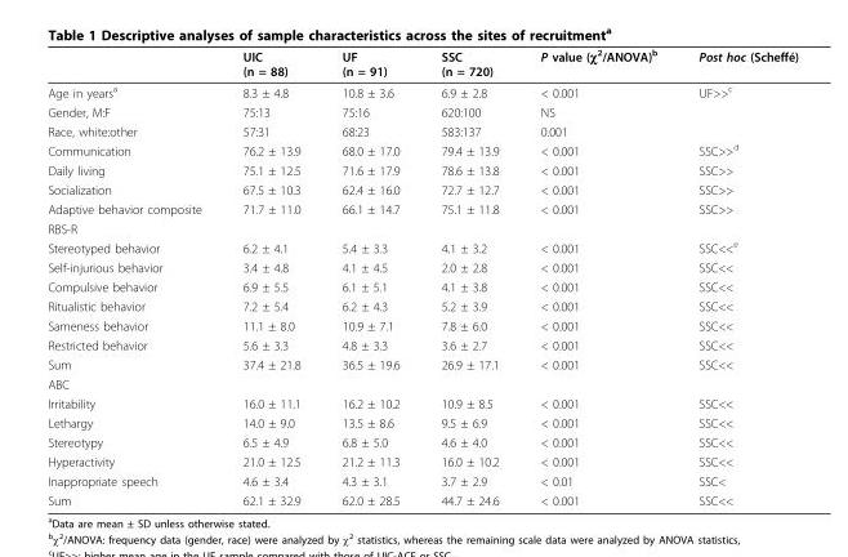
<table><thead><tr><td></td><td>UIC (n = 88)</td><td>UF (n = 91)</td><td>SSC (n = 720)</td><td>P value (χ<sup>2</sup>/ANOVA)<sup>b</sup></td><td>Post hoc (Scheffé)</td></tr></thead><tbody><tr><td>Age in years<sup>a</sup></td><td>8.3 ± 4.8</td><td>10.8 ± 3.6</td><td>6.9 ± 2.8</td><td>&lt; 0.001</td><td>UF&gt;&gt;<sup>c</sup></td></tr><tr><td>Gender, M:F</td><td>75:13</td><td>75:16</td><td>620:100</td><td>NS</td><td></td></tr><tr><td>Race, white:other</td><td>57:31</td><td>68:23</td><td>583:137</td><td>0.001</td><td></td></tr><tr><td>Communication</td><td>76.2 ± 13.9</td><td>68.0 ± 17.0</td><td>79.4 ± 13.9</td><td>&lt; 0.001</td><td>SSC&gt;&gt;<sup>d</sup></td></tr><tr><td>Daily living</td><td>75.1 ± 12.5</td><td>71.6 ± 17.9</td><td>78.6 ± 13.8</td><td>&lt; 0.001</td><td>SSC&gt;&gt;</td></tr><tr><td>Socialization</td><td>67.5 ± 10.3</td><td>62.4 ± 16.0</td><td>72.7 ± 12.7</td><td>&lt; 0.001</td><td>SSC&gt;&gt;</td></tr><tr><td>Adaptive behavior composite</td><td>71.7 ± 11.0</td><td>66.1 ± 14.7</td><td>75.1 ± 11.8</td><td>&lt; 0.001</td><td>SSC&gt;&gt;</td></tr><tr><td colspan="6">RBS-R</td></tr><tr><td>Stereotyped behavior</td><td>6.2 ± 4.1</td><td>5.4 ± 3.3</td><td>4.1 ± 3.2</td><td>&lt; 0.001</td><td>SSC&lt;&lt;<sup>e</sup></td></tr><tr><td>Self-injurious behavior</td><td>3.4 ± 4.8</td><td>4.1 ± 4.5</td><td>2.0 ± 2.8</td><td>&lt; 0.001</td><td>SSC&lt;&lt;</td></tr><tr><td>Compulsive behavior</td><td>6.9 ± 5.5</td><td>6.1 ± 5.1</td><td>4.1 ± 3.8</td><td>&lt; 0.001</td><td>SSC&lt;&lt;</td></tr><tr><td>Ritualistic behavior</td><td>7.2 ± 5.4</td><td>6.2 ± 4.3</td><td>5.2 ± 3.9</td><td>&lt; 0.001</td><td>SSC&lt;&lt;</td></tr><tr><td>Sameness behavior</td><td>11.1 ± 8.0</td><td>10.9 ± 7.1</td><td>7.8 ± 6.0</td><td>&lt; 0.001</td><td>SSC&lt;&lt;</td></tr><tr><td>Restricted behavior</td><td>5.6 ± 3.3</td><td>4.8 ± 3.3</td><td>3.6 ± 2.7</td><td>&lt; 0.001</td><td>SSC&lt;&lt;</td></tr><tr><td>Sum</td><td>37.4 ± 21.8</td><td>36.5 ± 19.6</td><td>26.9 ± 17.1</td><td>&lt; 0.001</td><td>SSC&lt;&lt;</td></tr><tr><td colspan="6">ABC</td></tr><tr><td>Irritability</td><td>16.0 ± 11.1</td><td>16.2 ± 10.2</td><td>10.9 ± 8.5</td><td>&lt; 0.001</td><td>SSC&lt;&lt;</td></tr><tr><td>Lethargy</td><td>14.0 ± 9.0</td><td>13.5 ± 8.6</td><td>9.5 ± 6.9</td><td>&lt; 0.001</td><td>SSC&lt;&lt;</td></tr><tr><td>Stereotypy</td><td>6.5 ± 4.9</td><td>6.8 ± 5.0</td><td>4.6 ± 4.0</td><td>&lt; 0.001</td><td>SSC&lt;&lt;</td></tr><tr><td>Hyperactivity</td><td>21.0 ± 12.5</td><td>21.2 ± 11.3</td><td>16.0 ± 10.2</td><td>&lt; 0.001</td><td>SSC&lt;&lt;</td></tr><tr><td>Inappropriate speech</td><td>4.6 ± 3.4</td><td>4.3 ± 3.1</td><td>3.7 ± 2.9</td><td>&lt; 0.01</td><td>SSC&lt;</td></tr><tr><td>Sum</td><td>62.1 ± 32.9</td><td>62.0 ± 28.5</td><td>44.7 ± 24.6</td><td>&lt; 0.001</td><td>SSC&lt;&lt;</td></tr></tbody></table>